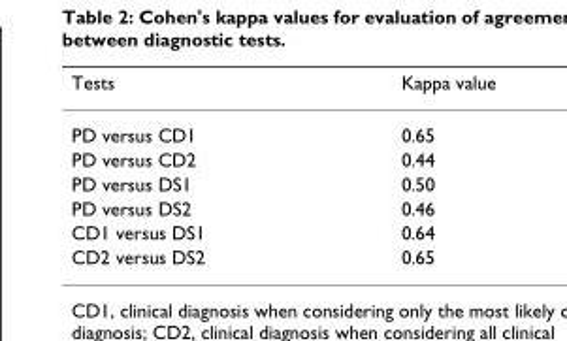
<table><thead><tr><td>Tests</td><td>Kappa value</td></tr></thead><tbody><tr><td>PD versus CD1</td><td>0.65</td></tr><tr><td>PD versus CD2</td><td>0.44</td></tr><tr><td>PD versus DS1</td><td>0.50</td></tr><tr><td>PD versus DS2</td><td>0.46</td></tr><tr><td>CD1 versus DS1</td><td>0.64</td></tr><tr><td>CD2 versus DS2</td><td>0.65</td></tr></tbody></table>